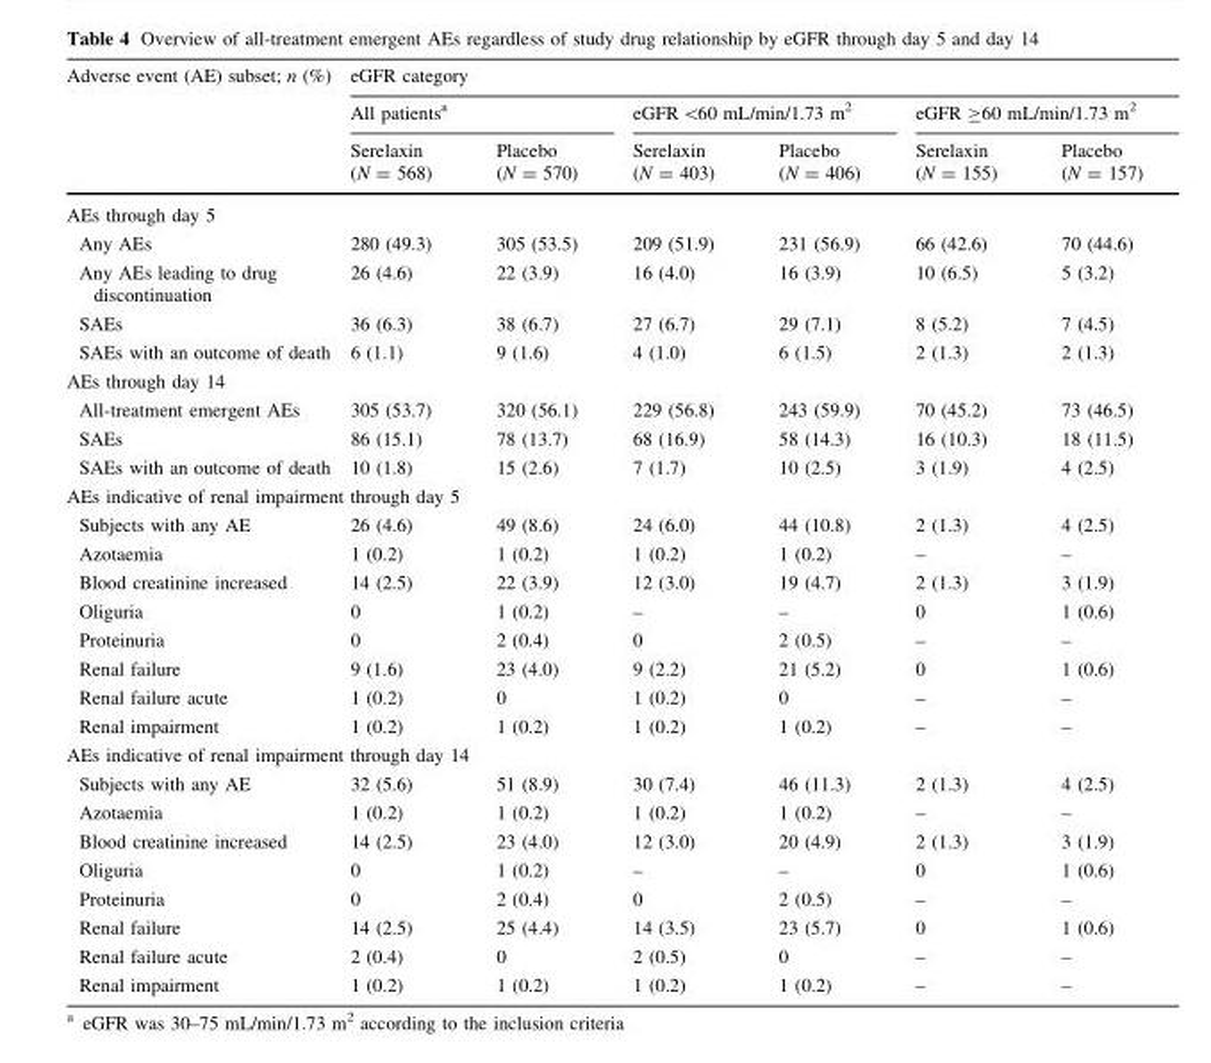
<table><thead><tr><td rowspan="3">Adverse event (AE) subset; n (%)</td><td colspan="6">eGFR category</td></tr><tr><td colspan="2">All patients<sup>a</sup></td><td colspan="2">eGFR &lt;60 mL/min/1.73 m<sup>2</sup></td><td colspan="2">eGFR ≥60 mL/min/1.73 m<sup>2</sup></td></tr><tr><td>Serelaxin (N = 568)</td><td>Placebo (N = 570)</td><td>Serelaxin (N = 403)</td><td>Placebo (N = 406)</td><td>Serelaxin (N = 155)</td><td>Placebo (N = 157)</td></tr></thead><tbody><tr><td colspan="7">AEs through day 5</td></tr><tr><td>Any AEs</td><td>280 (49.3)</td><td>305 (53.5)</td><td>209 (51.9)</td><td>231 (56.9)</td><td>66 (42.6)</td><td>70 (44.6)</td></tr><tr><td>Any AEs leading to drug discontinuation</td><td>26 (4.6)</td><td>22 (3.9)</td><td>16 (4.0)</td><td>16 (3.9)</td><td>10 (6.5)</td><td>5 (3.2)</td></tr><tr><td>SAEs</td><td>36 (6.3)</td><td>38 (6.7)</td><td>27 (6.7)</td><td>29 (7.1)</td><td>8 (5.2)</td><td>7 (4.5)</td></tr><tr><td>SAEs with an outcome of death</td><td>6 (1.1)</td><td>9 (1.6)</td><td>4 (1.0)</td><td>6 (1.5)</td><td>2 (1.3)</td><td>2 (1.3)</td></tr><tr><td colspan="7">AEs through day 14</td></tr><tr><td>All-treatment emergent AEs</td><td>305 (53.7)</td><td>320 (56.1)</td><td>229 (56.8)</td><td>243 (59.9)</td><td>70 (45.2)</td><td>73 (46.5)</td></tr><tr><td>SAEs</td><td>86 (15.1)</td><td>78 (13.7)</td><td>68 (16.9)</td><td>58 (14.3)</td><td>16 (10.3)</td><td>18 (11.5)</td></tr><tr><td>SAEs with an outcome of death</td><td>10 (1.8)</td><td>15 (2.6)</td><td>7 (1.7)</td><td>10 (2.5)</td><td>3 (1.9)</td><td>4 (2.5)</td></tr><tr><td colspan="7">AEs indicative of renal impairment through day 5</td></tr><tr><td>Subjects with any AE</td><td>26 (4.6)</td><td>49 (8.6)</td><td>24 (6.0)</td><td>44 (10.8)</td><td>2 (1.3)</td><td>4 (2.5)</td></tr><tr><td>Azotaemia</td><td>1 (0.2)</td><td>1 (0.2)</td><td>1 (0.2)</td><td>1 (0.2)</td><td>–</td><td>–</td></tr><tr><td>Blood creatinine increased</td><td>14 (2.5)</td><td>22 (3.9)</td><td>12 (3.0)</td><td>19 (4.7)</td><td>2 (1.3)</td><td>3 (1.9)</td></tr><tr><td>Oliguria</td><td>0</td><td>1 (0.2)</td><td>–</td><td>–</td><td>0</td><td>1 (0.6)</td></tr><tr><td>Proteinuria</td><td>0</td><td>2 (0.4)</td><td>0</td><td>2 (0.5)</td><td>–</td><td>–</td></tr><tr><td>Renal failure</td><td>9 (1.6)</td><td>23 (4.0)</td><td>9 (2.2)</td><td>21 (5.2)</td><td>0</td><td>1 (0.6)</td></tr><tr><td>Renal failure acute</td><td>1 (0.2)</td><td>0</td><td>1 (0.2)</td><td>0</td><td>–</td><td>–</td></tr><tr><td>Renal impairment</td><td>1 (0.2)</td><td>1 (0.2)</td><td>1 (0.2)</td><td>1 (0.2)</td><td>–</td><td>–</td></tr><tr><td colspan="7">AEs indicative of renal impairment through day 14</td></tr><tr><td>Subjects with any AE</td><td>32 (5.6)</td><td>51 (8.9)</td><td>30 (7.4)</td><td>46 (11.3)</td><td>2 (1.3)</td><td>4 (2.5)</td></tr><tr><td>Azotaemia</td><td>1 (0.2)</td><td>1 (0.2)</td><td>1 (0.2)</td><td>1 (0.2)</td><td>–</td><td>–</td></tr><tr><td>Blood creatinine increased</td><td>14 (2.5)</td><td>23 (4.0)</td><td>12 (3.0)</td><td>20 (4.9)</td><td>2 (1.3)</td><td>3 (1.9)</td></tr><tr><td>Oliguria</td><td>0</td><td>1 (0.2)</td><td>–</td><td>–</td><td>0</td><td>1 (0.6)</td></tr><tr><td>Proteinuria</td><td>0</td><td>2 (0.4)</td><td>0</td><td>2 (0.5)</td><td>–</td><td>–</td></tr><tr><td>Renal failure</td><td>14 (2.5)</td><td>25 (4.4)</td><td>14 (3.5)</td><td>23 (5.7)</td><td>0</td><td>1 (0.6)</td></tr><tr><td>Renal failure acute</td><td>2 (0.4)</td><td>0</td><td>2 (0.5)</td><td>0</td><td>–</td><td>–</td></tr><tr><td>Renal impairment</td><td>1 (0.2)</td><td>1 (0.2)</td><td>1 (0.2)</td><td>1 (0.2)</td><td>–</td><td>–</td></tr></tbody></table>